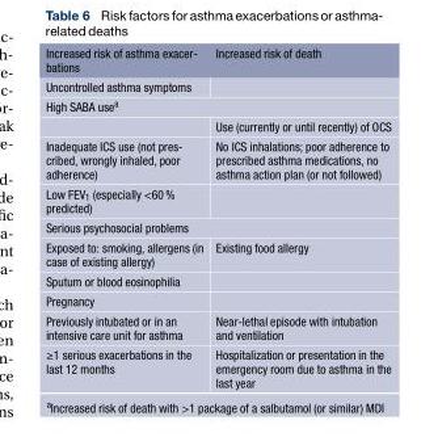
<table><thead><tr><td>Increased risk of asthma exacer- bations</td><td>Increased risk of death</td></tr></thead><tbody><tr><td colspan="2">Uncontrolled asthma symptoms</td></tr><tr><td colspan="2">High SABA use<sup>a</sup></td></tr><tr><td></td><td>Use (currently or until recently) of OCS</td></tr><tr><td>Inadequate ICS use (not pres- cribed, wrongly inhaled, poor adherence)</td><td>No ICS inhalations; poor adherence to prescribed asthma medications, no asthma action plan (or not followed)</td></tr><tr><td colspan="2">Low FEV<sub>1</sub> (especially &lt;60 % predicted)</td></tr><tr><td colspan="2">Serious psychosocial problems</td></tr><tr><td>Exposed to: smoking, allergens (in case of existing allergy)</td><td>Existing food allergy</td></tr><tr><td colspan="2">Sputum or blood eosinophilia</td></tr><tr><td colspan="2">Pregnancy</td></tr><tr><td>Previously intubated or in an intensive care unit for asthma</td><td>Near-lethal episode with intubation and ventilation</td></tr><tr><td>≥1 serious exacerbations in the last 12 months</td><td>Hospitalization or presentation in the emergency room due to asthma in the last year</td></tr></tbody></table>